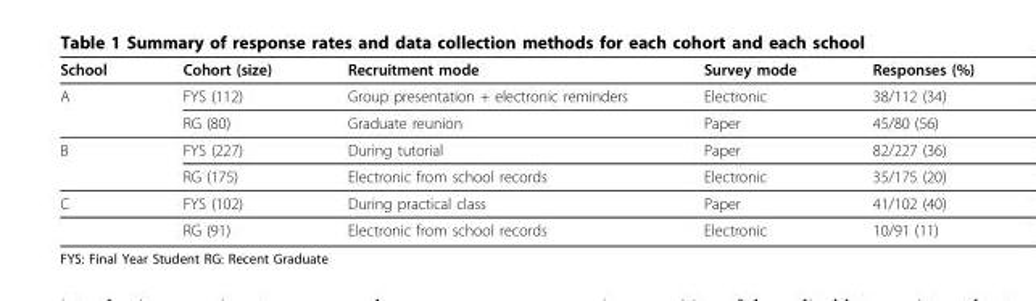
<table><thead><tr><td>School</td><td>Cohort (size)</td><td>Recruitment mode</td><td>Survey mode</td><td>Responses (%)</td></tr></thead><tbody><tr><td rowspan="2">A</td><td>FYS (112)</td><td>Group presentation + electronic reminders</td><td>Electronic</td><td>38/112 (34)</td></tr><tr><td>RG (80)</td><td>Graduate reunion</td><td>Paper</td><td>45/80 (56)</td></tr><tr><td rowspan="2">B</td><td>FYS (227)</td><td>During tutorial</td><td>Paper</td><td>82/227 (36)</td></tr><tr><td>RG (175)</td><td>Electronic from school records</td><td>Electronic</td><td>35/175 (20)</td></tr><tr><td rowspan="2">C</td><td>FYS (102)</td><td>During practical class</td><td>Paper</td><td>41/102 (40)</td></tr><tr><td>RG (91)</td><td>Electronic from school records</td><td>Electronic</td><td>10/91 (11)</td></tr></tbody></table>